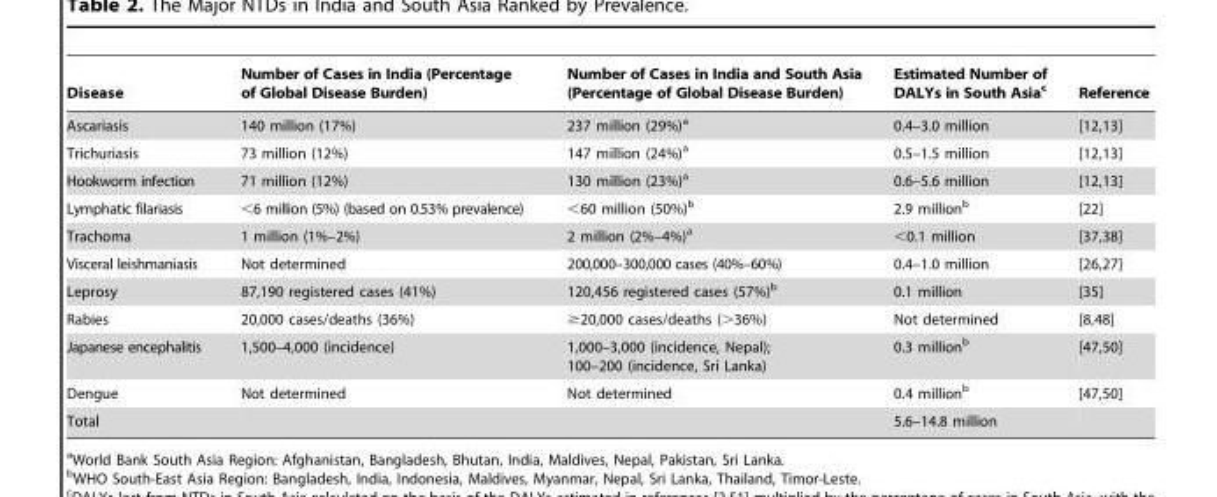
<table><thead><tr><td>Disease</td><td>Number of Cases in India (Percentage of Global Disease Burden)</td><td>Number of Cases in India and South Asia (Percentage of Global Disease Burden)</td><td>Estimated Number of DALYs in South Asia<sup>c</sup></td><td>Reference</td></tr></thead><tbody><tr><td>Ascariasis</td><td>140 million (17%)</td><td>237 million (29%)<sup>a</sup></td><td>0.4–3.0 million</td><td>[12,13]</td></tr><tr><td>Trichuriasis</td><td>73 million (12%)</td><td>147 million (24%)<sup>a</sup></td><td>0.5–1.5 million</td><td>[12,13]</td></tr><tr><td>Hookworm infection</td><td>71 million (12%)</td><td>130 million (23%)<sup>a</sup></td><td>0.6–5.6 million</td><td>[12,13]</td></tr><tr><td>Lymphatic filariasis</td><td>&lt;6 million (5%) (based on 0.53% prevalence)</td><td>&lt;60 million (50%)<sup>b</sup></td><td>2.9 million<sup>b</sup></td><td>[22]</td></tr><tr><td>Trachoma</td><td>1 million (1%–2%)</td><td>2 million (2%–4%)<sup>a</sup></td><td>&lt;0.1 million</td><td>[37,38]</td></tr><tr><td>Visceral leishmaniasis</td><td>Not determined</td><td>200,000–300,000 cases (40%–60%)</td><td>0.4–1.0 million</td><td>[26,27]</td></tr><tr><td>Leprosy</td><td>87,190 registered cases (41%)</td><td>120,456 registered cases (57%)<sup>b</sup></td><td>0.1 million</td><td>[35]</td></tr><tr><td>Rabies</td><td>20,000 cases/deaths (36%)</td><td>≥20,000 cases/deaths (&gt;36%)</td><td>Not determined</td><td>[8,48]</td></tr><tr><td>Japanese encephalitis</td><td>1,500–4,000 (incidence)</td><td>1,000–3,000 (incidence, Nepal); 100–200 (incidence, Sri Lanka)</td><td>0.3 million<sup>b</sup></td><td>[47,50]</td></tr><tr><td>Dengue</td><td>Not determined</td><td>Not determined</td><td>0.4 million<sup>b</sup></td><td>[47,50]</td></tr><tr><td>Total</td><td></td><td></td><td>5.6–14.8 million</td><td></td></tr></tbody></table>